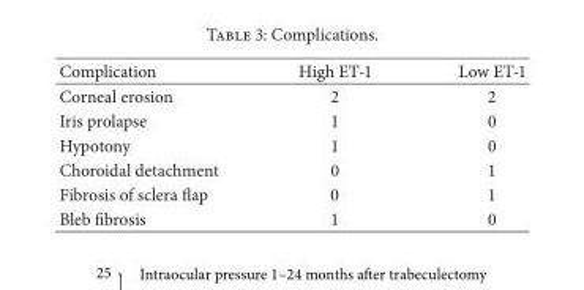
<table><thead><tr><td>Complication</td><td>High ET-1</td><td>Low ET-1</td></tr></thead><tbody><tr><td>Corneal erosion</td><td>2</td><td>2</td></tr><tr><td>Iris prolapse</td><td>1</td><td>0</td></tr><tr><td>Hypotony</td><td>1</td><td>0</td></tr><tr><td>Choroidal detachment</td><td>0</td><td>1</td></tr><tr><td>Fibrosis of sclera flap</td><td>0</td><td>1</td></tr><tr><td>Bleb fibrosis</td><td>1</td><td>0</td></tr></tbody></table>